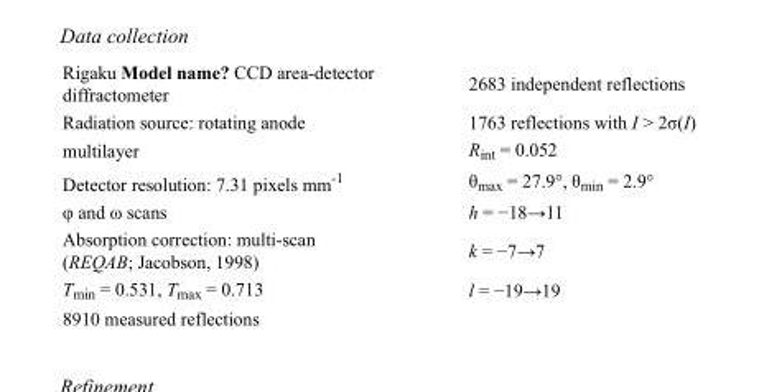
<table><tbody><tr><td>Rigaku Model name? CCD area-detector diffractometer</td><td>2683 independent reflections</td></tr><tr><td>Radiation source: rotating anode</td><td>1763 reflections with I &gt; 2σ(I)</td></tr><tr><td>multilayer</td><td>R<sub>int</sub> = 0.052</td></tr><tr><td>Detector resolution: 7.31 pixels mm<sup>-1</sup></td><td>θ<sub>max</sub> = 27.9°, θ<sub>min</sub> = 2.9°</td></tr><tr><td>φ and ω scans</td><td>h = −18→11</td></tr><tr><td>Absorption correction: multi-scan (REQAB; Jacobson, 1998)</td><td>k = −7→7</td></tr><tr><td>T<sub>min</sub> = 0.531, T<sub>max</sub> = 0.713</td><td>l = −19→19</td></tr><tr><td>8910 measured reflections</td><td></td></tr></tbody></table>